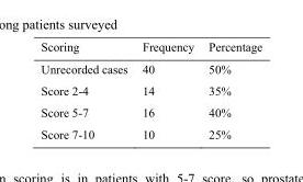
<table><thead><tr><td>Scoring</td><td>Frequency</td><td>Percentage</td></tr></thead><tbody><tr><td>Unrecorded cases</td><td>40</td><td>50%</td></tr><tr><td>Score 2-4</td><td>14</td><td>35%</td></tr><tr><td>Score 5-7</td><td>16</td><td>40%</td></tr><tr><td>Score 7-10</td><td>10</td><td>25%</td></tr></tbody></table>